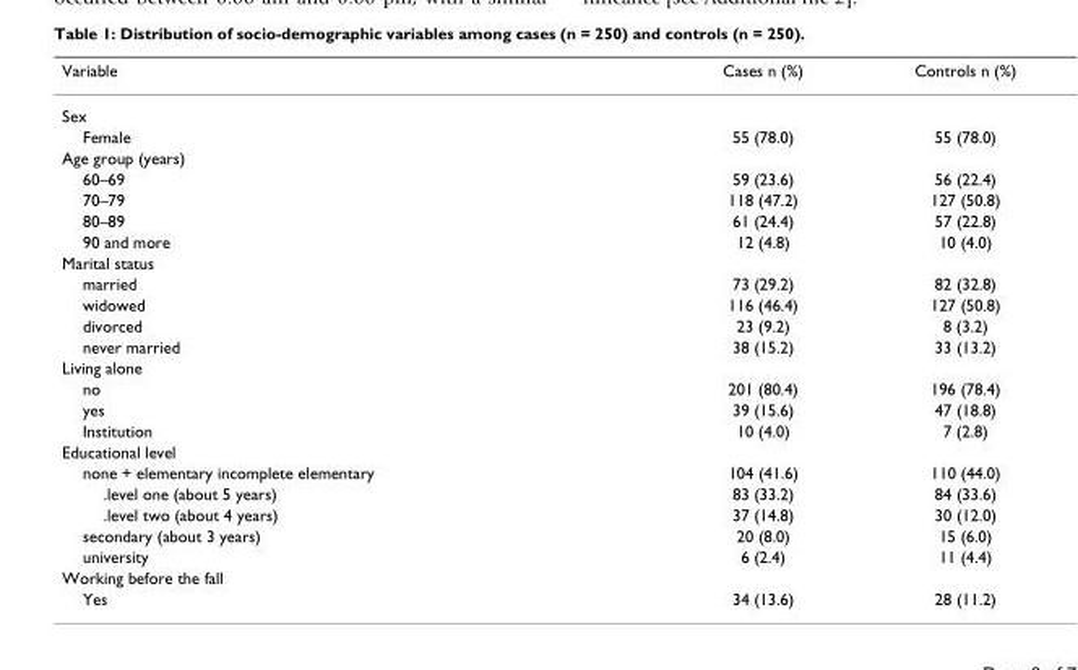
<table><thead><tr><td>Variable</td><td>Cases n (%)</td><td>Controls n (%)</td></tr></thead><tbody><tr><td colspan="3">Sex</td></tr><tr><td>Female</td><td>55 (78.0)</td><td>55 (78.0)</td></tr><tr><td colspan="3">Age group (years)</td></tr><tr><td>60–69</td><td>59 (23.6)</td><td>56 (22.4)</td></tr><tr><td>70–79</td><td>118 (47.2)</td><td>127 (50.8)</td></tr><tr><td>80–89</td><td>61 (24.4)</td><td>57 (22.8)</td></tr><tr><td>90 and more</td><td>12 (4.8)</td><td>10 (4.0)</td></tr><tr><td colspan="3">Marital status</td></tr><tr><td>married</td><td>73 (29.2)</td><td>82 (32.8)</td></tr><tr><td>widowed</td><td>116 (46.4)</td><td>127 (50.8)</td></tr><tr><td>divorced</td><td>23 (9.2)</td><td>8 (3.2)</td></tr><tr><td>never married</td><td>38 (15.2)</td><td>33 (13.2)</td></tr><tr><td colspan="3">Living alone</td></tr><tr><td>no</td><td>201 (80.4)</td><td>196 (78.4)</td></tr><tr><td>yes</td><td>39 (15.6)</td><td>47 (18.8)</td></tr><tr><td>Institution</td><td>10 (4.0)</td><td>7 (2.8)</td></tr><tr><td colspan="3">Educational level</td></tr><tr><td>none + elementary incomplete elementary</td><td>104 (41.6)</td><td>110 (44.0)</td></tr><tr><td>.level one (about 5 years)</td><td>83 (33.2)</td><td>84 (33.6)</td></tr><tr><td>.level two (about 4 years)</td><td>37 (14.8)</td><td>30 (12.0)</td></tr><tr><td>secondary (about 3 years)</td><td>20 (8.0)</td><td>15 (6.0)</td></tr><tr><td>university</td><td>6 (2.4)</td><td>11 (4.4)</td></tr><tr><td colspan="3">Working before the fall</td></tr><tr><td>Yes</td><td>34 (13.6)</td><td>28 (11.2)</td></tr></tbody></table>